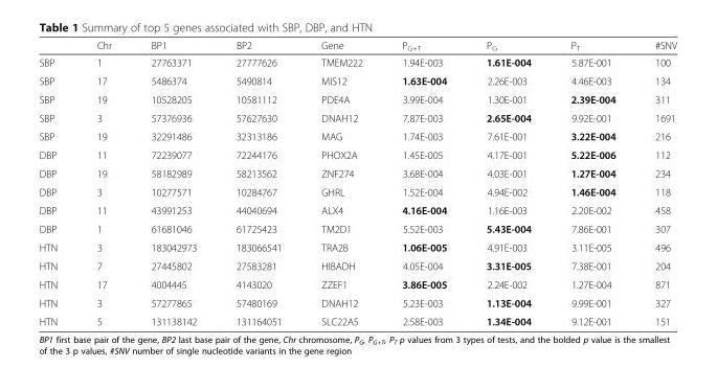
<table><thead><tr><td></td><td>Chr</td><td>BP1</td><td>BP2</td><td>Gene</td><td>P<sub>G+T</sub></td><td>P<sub>G</sub></td><td>P<sub>T</sub></td><td>#SNV</td></tr></thead><tbody><tr><td>SBP</td><td>1</td><td>27763371</td><td>27777626</td><td>TMEM222</td><td>1.94E-003</td><td>1.61E-004</td><td>5.87E-001</td><td>100</td></tr><tr><td>SBP</td><td>17</td><td>5486374</td><td>5490814</td><td>MIS12</td><td>1.63E-004</td><td>2.26E-003</td><td>4.46E-003</td><td>134</td></tr><tr><td>SBP</td><td>19</td><td>10528205</td><td>10581112</td><td>PDE4A</td><td>3.99E-004</td><td>1.30E-001</td><td>2.39E-004</td><td>311</td></tr><tr><td>SBP</td><td>3</td><td>57376936</td><td>57627630</td><td>DNAH12</td><td>7.87E-003</td><td>2.65E-004</td><td>9.92E-001</td><td>1691</td></tr><tr><td>SBP</td><td>19</td><td>32291486</td><td>32313186</td><td>MAG</td><td>1.74E-003</td><td>7.61E-001</td><td>3.22E-004</td><td>216</td></tr><tr><td>DBP</td><td>11</td><td>72239077</td><td>72244176</td><td>PHOX2A</td><td>1.45E-005</td><td>4.17E-001</td><td>5.22E-006</td><td>112</td></tr><tr><td>DBP</td><td>19</td><td>58182989</td><td>58213562</td><td>ZNF274</td><td>3.68E-004</td><td>4.03E-001</td><td>1.27E-004</td><td>234</td></tr><tr><td>DBP</td><td>3</td><td>10277571</td><td>10284767</td><td>GHRL</td><td>1.52E-004</td><td>4.94E-002</td><td>1.46E-004</td><td>118</td></tr><tr><td>DBP</td><td>11</td><td>43991253</td><td>44040694</td><td>ALX4</td><td>4.16E-004</td><td>1.16E-003</td><td>2.20E-002</td><td>458</td></tr><tr><td>DBP</td><td>1</td><td>61681046</td><td>61725423</td><td>TM2D1</td><td>5.52E-003</td><td>5.43E-004</td><td>7.86E-001</td><td>307</td></tr><tr><td>HTN</td><td>3</td><td>183042973</td><td>183066541</td><td>TRA2B</td><td>1.06E-005</td><td>4.91E-003</td><td>3.11E-005</td><td>496</td></tr><tr><td>HTN</td><td>7</td><td>27445802</td><td>27583281</td><td>HIBADH</td><td>4.05E-004</td><td>3.31E-005</td><td>7.38E-001</td><td>204</td></tr><tr><td>HTN</td><td>17</td><td>4004445</td><td>4143020</td><td>ZZEF1</td><td>3.86E-005</td><td>2.24E-002</td><td>1.27E-004</td><td>871</td></tr><tr><td>HTN</td><td>3</td><td>57277865</td><td>57480169</td><td>DNAH12</td><td>5.23E-003</td><td>1.13E-004</td><td>9.99E-001</td><td>327</td></tr><tr><td>HTN</td><td>5</td><td>131138142</td><td>131164051</td><td>SLC22A5</td><td>2.58E-003</td><td>1.34E-004</td><td>9.12E-001</td><td>151</td></tr></tbody></table>